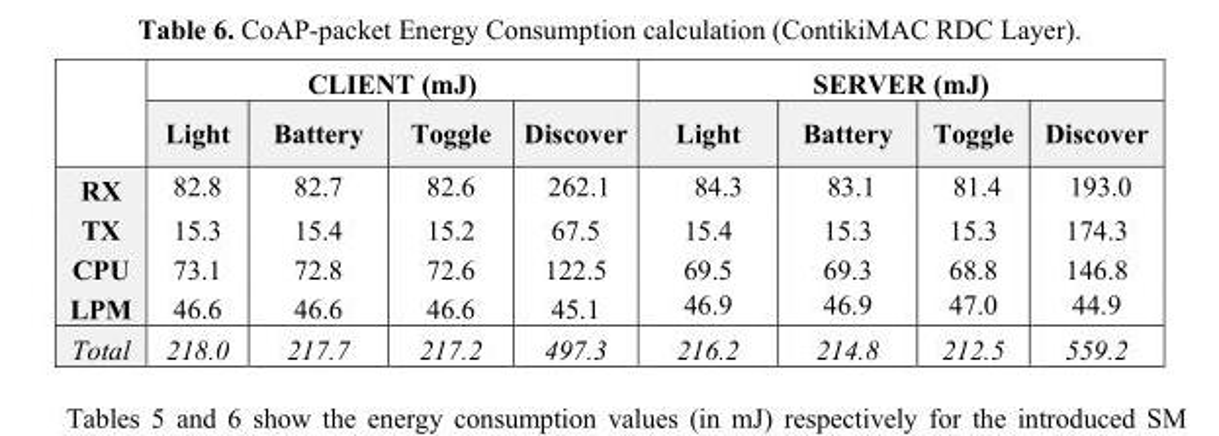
<table><thead><tr><td rowspan="2"></td><td colspan="4">CLIENT (mJ)</td><td colspan="4">SERVER (mJ)</td></tr><tr><td>Light</td><td>Battery</td><td>Toggle</td><td>Discover</td><td>Light</td><td>Battery</td><td>Toggle</td><td>Discover</td></tr></thead><tbody><tr><td>RX</td><td>82.8</td><td>82.7</td><td>82.6</td><td>262.1</td><td>84.3</td><td>83.1</td><td>81.4</td><td>193.0</td></tr><tr><td>TX</td><td>15.3</td><td>15.4</td><td>15.2</td><td>67.5</td><td>15.4</td><td>15.3</td><td>15.3</td><td>174.3</td></tr><tr><td>CPU</td><td>73.1</td><td>72.8</td><td>72.6</td><td>122.5</td><td>69.5</td><td>69.3</td><td>68.8</td><td>146.8</td></tr><tr><td>LPM</td><td>46.6</td><td>46.6</td><td>46.6</td><td>45.1</td><td>46.9</td><td>46.9</td><td>47.0</td><td>44.9</td></tr><tr><td>Total</td><td>218.0</td><td>217.7</td><td>217.2</td><td>497.3</td><td>216.2</td><td>214.8</td><td>212.5</td><td>559.2</td></tr></tbody></table>